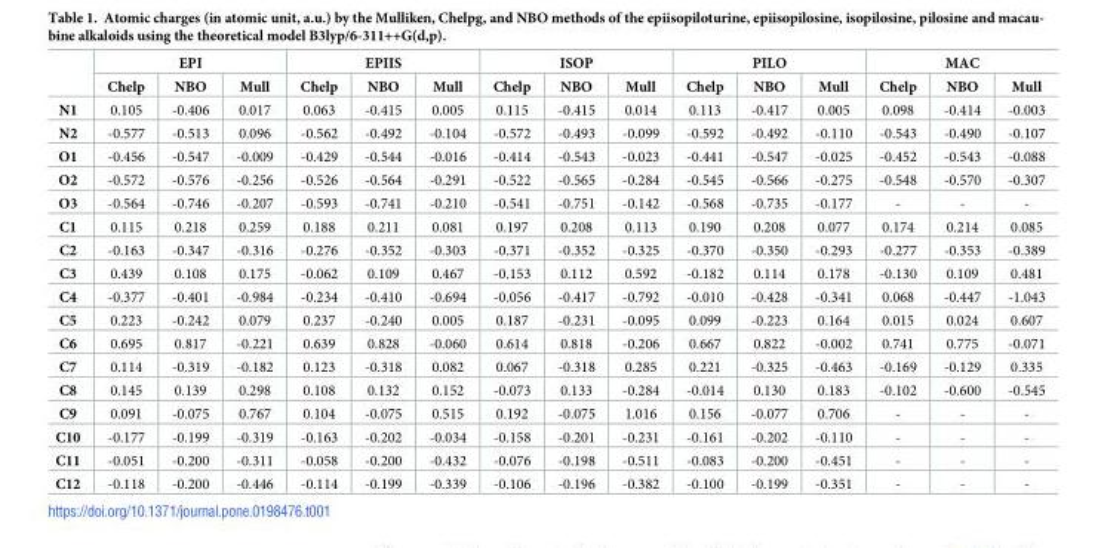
<table><thead><tr><td rowspan="2"></td><td colspan="3">EPI</td><td colspan="3">EPIIS</td><td colspan="3">ISOP</td><td colspan="3">PILO</td><td colspan="3">MAC</td></tr><tr><td>Chelp</td><td>NBO</td><td>Mull</td><td>Chelp</td><td>NBO</td><td>Mull</td><td>Chelp</td><td>NBO</td><td>Mull</td><td>Chelp</td><td>NBO</td><td>Mull</td><td>Chelp</td><td>NBO</td><td>Mull</td></tr></thead><tbody><tr><td>N1</td><td>0.105</td><td>-0.406</td><td>0.017</td><td>0.063</td><td>-0.415</td><td>0.005</td><td>0.115</td><td>-0.415</td><td>0.014</td><td>0.113</td><td>-0.417</td><td>0.005</td><td>0.098</td><td>-0.414</td><td>-0.003</td></tr><tr><td>N2</td><td>-0.577</td><td>-0.513</td><td>0.096</td><td>-0.562</td><td>-0.492</td><td>-0.104</td><td>-0.572</td><td>-0.493</td><td>-0.099</td><td>-0.592</td><td>-0.492</td><td>-0.110</td><td>-0.543</td><td>-0.490</td><td>-0.107</td></tr><tr><td>O1</td><td>-0.456</td><td>-0.547</td><td>-0.009</td><td>-0.429</td><td>-0.544</td><td>-0.016</td><td>-0.414</td><td>-0.543</td><td>-0.023</td><td>-0.441</td><td>-0.547</td><td>-0.025</td><td>-0.452</td><td>-0.543</td><td>-0.088</td></tr><tr><td>O2</td><td>-0.572</td><td>-0.576</td><td>-0.256</td><td>-0.526</td><td>-0.564</td><td>-0.291</td><td>-0.522</td><td>-0.565</td><td>-0.284</td><td>-0.545</td><td>-0.566</td><td>-0.275</td><td>-0.548</td><td>-0.570</td><td>-0.307</td></tr><tr><td>O3</td><td>-0.564</td><td>-0.746</td><td>-0.207</td><td>-0.593</td><td>-0.741</td><td>-0.210</td><td>-0.541</td><td>-0.751</td><td>-0.142</td><td>-0.568</td><td>-0.735</td><td>-0.177</td><td>-</td><td>-</td><td>-</td></tr><tr><td>C1</td><td>0.115</td><td>0.218</td><td>0.259</td><td>0.188</td><td>0.211</td><td>0.081</td><td>0.197</td><td>0.208</td><td>0.113</td><td>0.190</td><td>0.208</td><td>0.077</td><td>0.174</td><td>0.214</td><td>0.085</td></tr><tr><td>C2</td><td>-0.163</td><td>-0.347</td><td>-0.316</td><td>-0.276</td><td>-0.352</td><td>-0.303</td><td>-0.371</td><td>-0.352</td><td>-0.325</td><td>-0.370</td><td>-0.350</td><td>-0.293</td><td>-0.277</td><td>-0.353</td><td>-0.389</td></tr><tr><td>C3</td><td>0.439</td><td>0.108</td><td>0.175</td><td>-0.062</td><td>0.109</td><td>0.467</td><td>-0.153</td><td>0.112</td><td>0.592</td><td>-0.182</td><td>0.114</td><td>0.178</td><td>-0.130</td><td>0.109</td><td>0.481</td></tr><tr><td>C4</td><td>-0.377</td><td>-0.401</td><td>-0.984</td><td>-0.234</td><td>-0.410</td><td>-0.694</td><td>-0.056</td><td>-0.417</td><td>-0.792</td><td>-0.010</td><td>-0.428</td><td>-0.341</td><td>0.068</td><td>-0.447</td><td>-1.043</td></tr><tr><td>C5</td><td>0.223</td><td>-0.242</td><td>0.079</td><td>0.237</td><td>-0.240</td><td>0.005</td><td>0.187</td><td>-0.231</td><td>-0.095</td><td>0.099</td><td>-0.223</td><td>0.164</td><td>0.015</td><td>0.024</td><td>0.607</td></tr><tr><td>C6</td><td>0.695</td><td>0.817</td><td>-0.221</td><td>0.639</td><td>0.828</td><td>-0.060</td><td>0.614</td><td>0.818</td><td>-0.206</td><td>0.667</td><td>0.822</td><td>-0.002</td><td>0.741</td><td>0.775</td><td>-0.071</td></tr><tr><td>C7</td><td>0.114</td><td>-0.319</td><td>-0.182</td><td>0.123</td><td>-0.318</td><td>0.082</td><td>0.067</td><td>-0.318</td><td>0.285</td><td>0.221</td><td>-0.325</td><td>-0.463</td><td>-0.169</td><td>-0.129</td><td>0.335</td></tr><tr><td>C8</td><td>0.145</td><td>0.139</td><td>0.298</td><td>0.108</td><td>0.132</td><td>0.152</td><td>-0.073</td><td>0.133</td><td>-0.284</td><td>-0.014</td><td>0.130</td><td>0.183</td><td>-0.102</td><td>-0.600</td><td>-0.545</td></tr><tr><td>C9</td><td>0.091</td><td>-0.075</td><td>0.767</td><td>0.104</td><td>-0.075</td><td>0.515</td><td>0.192</td><td>-0.075</td><td>1.016</td><td>0.156</td><td>-0.077</td><td>0.706</td><td>-</td><td>-</td><td>-</td></tr><tr><td>C10</td><td>-0.177</td><td>-0.199</td><td>-0.319</td><td>-0.163</td><td>-0.202</td><td>-0.034</td><td>-0.158</td><td>-0.201</td><td>-0.231</td><td>-0.161</td><td>-0.202</td><td>-0.110</td><td>-</td><td>-</td><td>-</td></tr><tr><td>C11</td><td>-0.051</td><td>-0.200</td><td>-0.311</td><td>-0.058</td><td>-0.200</td><td>-0.432</td><td>-0.076</td><td>-0.198</td><td>-0.511</td><td>-0.083</td><td>-0.200</td><td>-0.451</td><td>-</td><td>-</td><td>-</td></tr><tr><td>C12</td><td>-0.118</td><td>-0.200</td><td>-0.446</td><td>-0.114</td><td>-0.199</td><td>-0.339</td><td>-0.106</td><td>-0.196</td><td>-0.382</td><td>-0.100</td><td>-0.199</td><td>-0.351</td><td>-</td><td>-</td><td>-</td></tr></tbody></table>